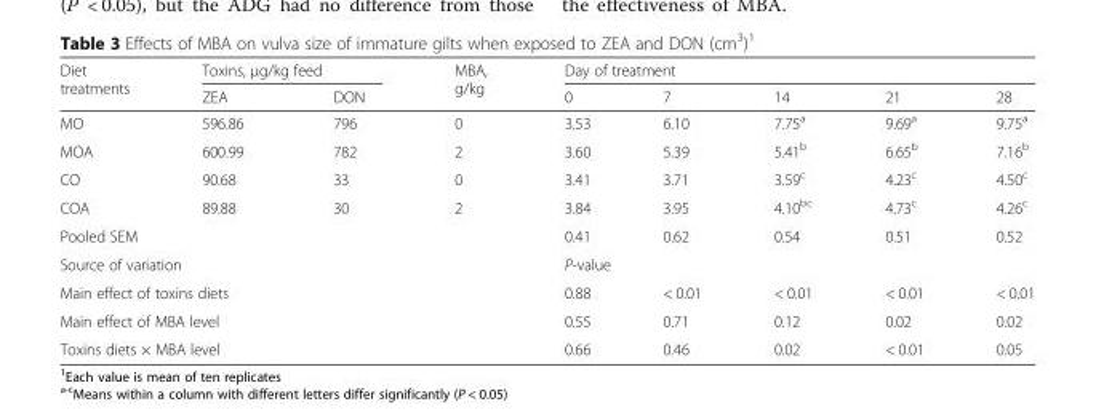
<table><thead><tr><td rowspan="2">Diet treatments</td><td colspan="2">Toxins, μg/kg feed</td><td rowspan="2">MBA, g/kg</td><td colspan="5">Day of treatment</td></tr><tr><td>ZEA</td><td>DON</td><td>0</td><td>7</td><td>14</td><td>21</td><td>28</td></tr></thead><tbody><tr><td>MO</td><td>596.86</td><td>796</td><td>0</td><td>3.53</td><td>6.10</td><td>7.75<sup>a</sup></td><td>9.69<sup>a</sup></td><td>9.75<sup>a</sup></td></tr><tr><td>MOA</td><td>600.99</td><td>782</td><td>2</td><td>3.60</td><td>5.39</td><td>5.41<sup>b</sup></td><td>6.65<sup>b</sup></td><td>7.16<sup>b</sup></td></tr><tr><td>CO</td><td>90.68</td><td>33</td><td>0</td><td>3.41</td><td>3.71</td><td>3.59<sup>c</sup></td><td>4.23<sup>c</sup></td><td>4.50<sup>c</sup></td></tr><tr><td>COA</td><td>89.88</td><td>30</td><td>2</td><td>3.84</td><td>3.95</td><td>4.10<sup>bc</sup></td><td>4.73<sup>c</sup></td><td>4.26<sup>c</sup></td></tr><tr><td colspan="4">Pooled SEM</td><td>0.41</td><td>0.62</td><td>0.54</td><td>0.51</td><td>0.52</td></tr><tr><td colspan="4">Source of variation</td><td colspan="5">P-value</td></tr><tr><td colspan="4">Main effect of toxins diets</td><td>0.88</td><td>&lt; 0.01</td><td>&lt; 0.01</td><td>&lt; 0.01</td><td>&lt; 0.01</td></tr><tr><td colspan="4">Main effect of MBA level</td><td>0.55</td><td>0.71</td><td>0.12</td><td>0.02</td><td>0.02</td></tr><tr><td colspan="4">Toxins diets × MBA level</td><td>0.66</td><td>0.46</td><td>0.02</td><td>&lt; 0.01</td><td>0.05</td></tr></tbody></table>